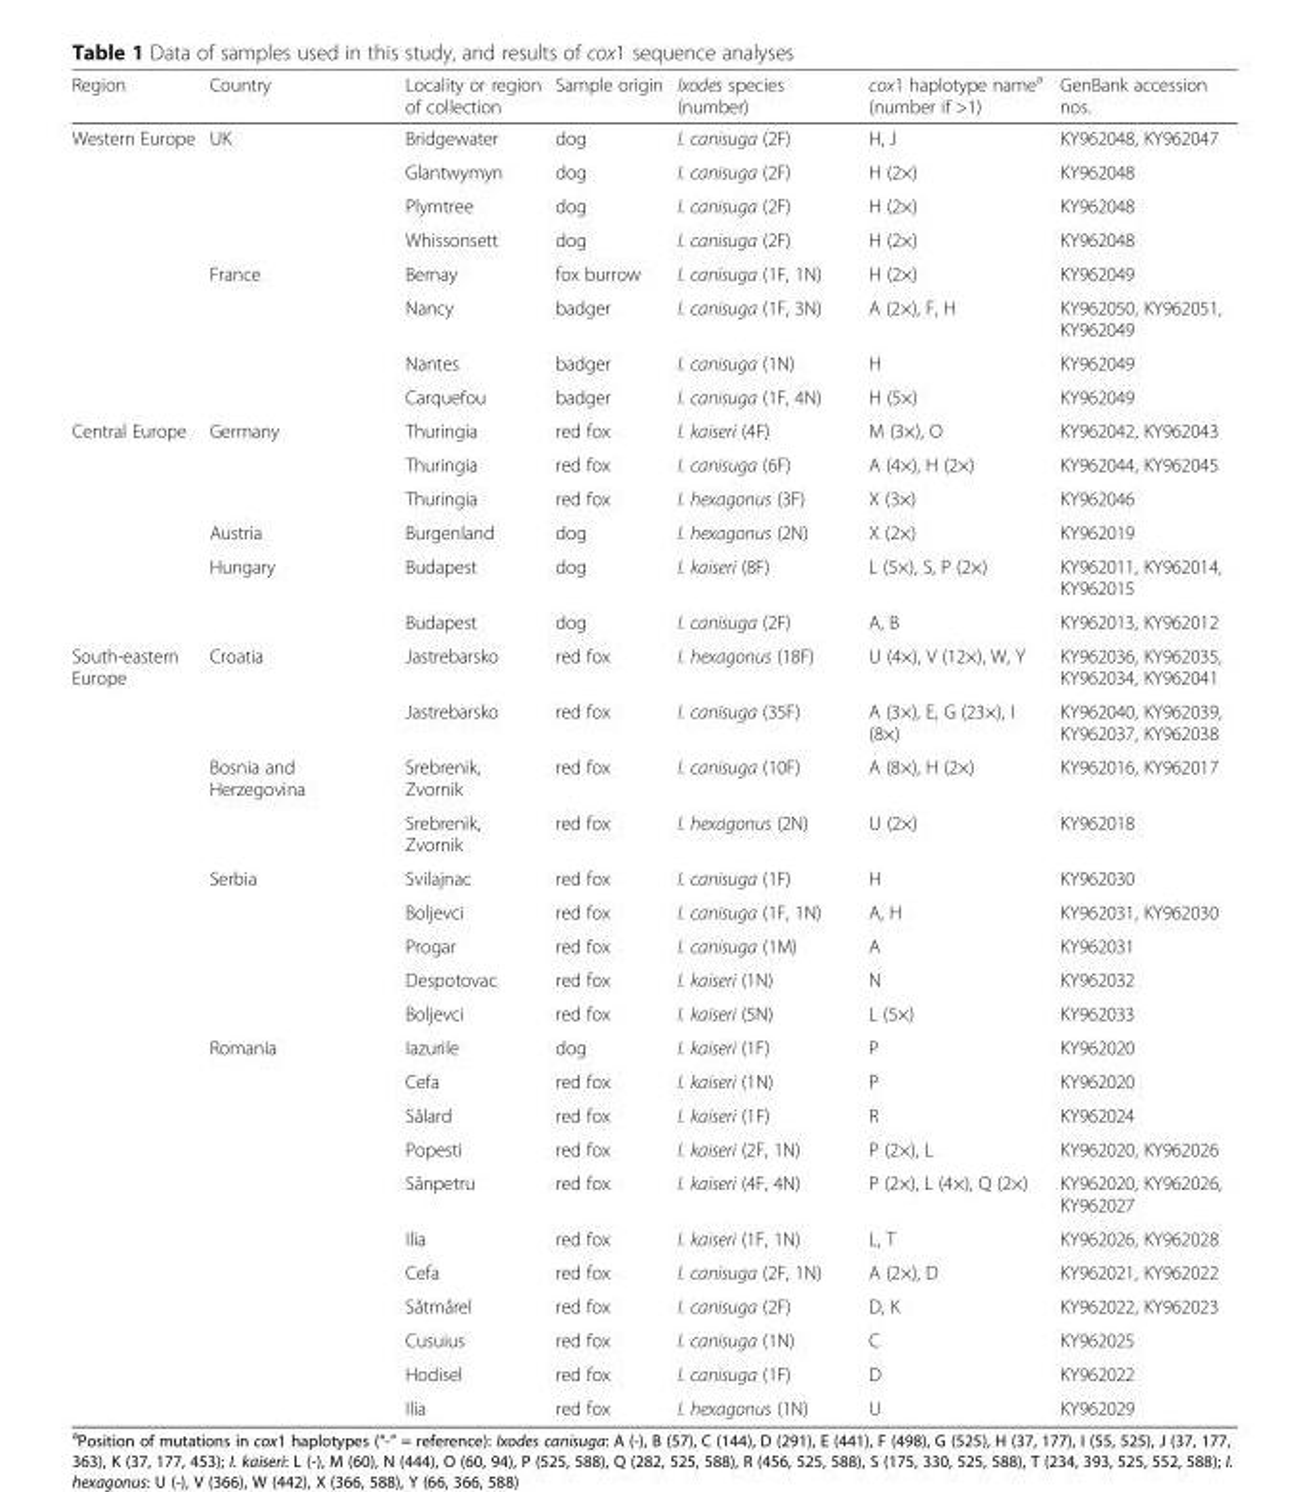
<table><thead><tr><td>Region</td><td>Country</td><td>Locality or region of collection</td><td>Sample origin</td><td>Ixodes species (number)</td><td>cox1 haplotype name<sup>a</sup> (number if &gt;1)</td><td>GenBank accession nos.</td></tr></thead><tbody><tr><td rowspan="8">Western Europe</td><td rowspan="4">UK</td><td>Bridgewater</td><td>dog</td><td>I. canisuga (2F)</td><td>H, J</td><td>KY962048, KY962047</td></tr><tr><td>Glantwymyn</td><td>dog</td><td>I. canisuga (2F)</td><td>H (2×)</td><td>KY962048</td></tr><tr><td>Plymtree</td><td>dog</td><td>I. canisuga (2F)</td><td>H (2×)</td><td>KY962048</td></tr><tr><td>Whissonsett</td><td>dog</td><td>I. canisuga (2F)</td><td>H (2×)</td><td>KY962048</td></tr><tr><td rowspan="4">France</td><td>Bernay</td><td>fox burrow</td><td>I. canisuga (1F, 1N)</td><td>H (2×)</td><td>KY962049</td></tr><tr><td>Nancy</td><td>badger</td><td>I. canisuga (1F, 3N)</td><td>A (2×), F, H</td><td>KY962050, KY962051, KY962049</td></tr><tr><td>Nantes</td><td>badger</td><td>I. canisuga (1N)</td><td>H</td><td>KY962049</td></tr><tr><td>Carquefou</td><td>badger</td><td>I. canisuga (1F, 4N)</td><td>H (5×)</td><td>KY962049</td></tr><tr><td rowspan="6">Central Europe</td><td rowspan="3">Germany</td><td>Thuringia</td><td>red fox</td><td>I. kaiseri (4F)</td><td>M (3×), O</td><td>KY962042, KY962043</td></tr><tr><td>Thuringia</td><td>red fox</td><td>I. canisuga (6F)</td><td>A (4×), H (2×)</td><td>KY962044, KY962045</td></tr><tr><td>Thuringia</td><td>red fox</td><td>I. hexagonus (3F)</td><td>X (3×)</td><td>KY962046</td></tr><tr><td>Austria</td><td>Burgenland</td><td>dog</td><td>I. hexagonus (2N)</td><td>X (2×)</td><td>KY962019</td></tr><tr><td rowspan="2">Hungary</td><td>Budapest</td><td>dog</td><td>I. kaiseri (8F)</td><td>L (5×), S, P (2×)</td><td>KY962011, KY962014, KY962015</td></tr><tr><td>Budapest</td><td>dog</td><td>I. canisuga (2F)</td><td>A, B</td><td>KY962013, KY962012</td></tr><tr><td rowspan="20">South-eastern Europe</td><td rowspan="2">Croatia</td><td>Jastrebarsko</td><td>red fox</td><td>I. hexagonus (18F)</td><td>U (4×), V (12×), W, Y</td><td>KY962036, KY962035, KY962034, KY962041</td></tr><tr><td>Jastrebarsko</td><td>red fox</td><td>I. canisuga (35F)</td><td>A (3×), E, G (23×), I (8×)</td><td>KY962040, KY962039, KY962037, KY962038</td></tr><tr><td rowspan="2">Bosnia and Herzegovina</td><td>Srebrenik, Zvornik</td><td>red fox</td><td>I. canisuga (10F)</td><td>A (8×), H (2×)</td><td>KY962016, KY962017</td></tr><tr><td>Srebrenik, Zvornik</td><td>red fox</td><td>I. hexagonus (2N)</td><td>U (2×)</td><td>KY962018</td></tr><tr><td rowspan="5">Serbia</td><td>Svilajnac</td><td>red fox</td><td>I. canisuga (1F)</td><td>H</td><td>KY962030</td></tr><tr><td>Boljevci</td><td>red fox</td><td>I. canisuga (1F, 1N)</td><td>A, H</td><td>KY962031, KY962030</td></tr><tr><td>Progar</td><td>red fox</td><td>I. canisuga (1M)</td><td>A</td><td>KY962031</td></tr><tr><td>Despotovac</td><td>red fox</td><td>I. kaiseri (1N)</td><td>N</td><td>KY962032</td></tr><tr><td>Boljevci</td><td>red fox</td><td>I. kaiseri (5N)</td><td>L (5×)</td><td>KY962033</td></tr><tr><td rowspan="11">Romania</td><td>Iazurile</td><td>dog</td><td>I. kaiseri (1F)</td><td>P</td><td>KY962020</td></tr><tr><td>Cefa</td><td>red fox</td><td>I. kaiseri (1N)</td><td>P</td><td>KY962020</td></tr><tr><td>Sǎlard</td><td>red fox</td><td>I. kaiseri (1F)</td><td>R</td><td>KY962024</td></tr><tr><td>Popesti</td><td>red fox</td><td>I. kaiseri (2F, 1N)</td><td>P (2×), L</td><td>KY962020, KY962026</td></tr><tr><td>Sǎnpetru</td><td>red fox</td><td>I. kaiseri (4F, 4N)</td><td>P (2×), L (4×), Q (2×)</td><td>KY962020, KY962026, KY962027</td></tr><tr><td>Ilia</td><td>red fox</td><td>I. kaiseri (1F, 1N)</td><td>L, T</td><td>KY962026, KY962028</td></tr><tr><td>Cefa</td><td>red fox</td><td>I. canisuga (2F, 1N)</td><td>A (2×), D</td><td>KY962021, KY962022</td></tr><tr><td>Sǎtmǎrel</td><td>red fox</td><td>I. canisuga (2F)</td><td>D, K</td><td>KY962022, KY962023</td></tr><tr><td>Cusuius</td><td>red fox</td><td>I. canisuga (1N)</td><td>C</td><td>KY962025</td></tr><tr><td>Hodisel</td><td>red fox</td><td>I. canisuga (1F)</td><td>D</td><td>KY962022</td></tr><tr><td>Ilia</td><td>red fox</td><td>I. hexagonus (1N)</td><td>U</td><td>KY962029</td></tr></tbody></table>